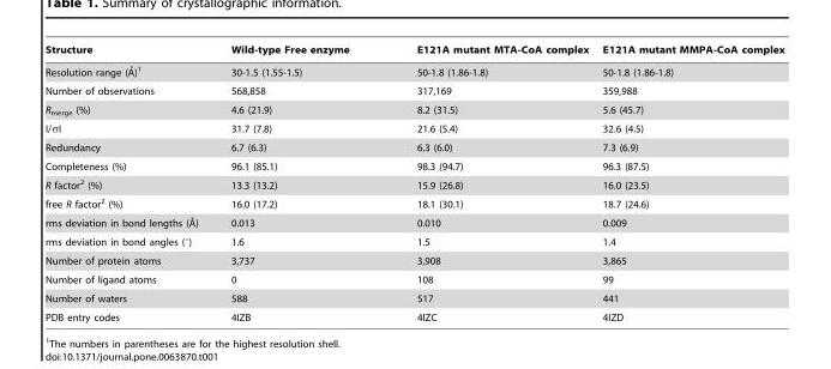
<table><thead><tr><td>Structure</td><td>Wild-type Free enzyme</td><td>E121A mutant MTA-CoA complex</td><td>E121A mutant MMPA-CoA complex</td></tr></thead><tbody><tr><td>Resolution range (A˚)1</td><td>30-1.5 (1.55-1.5)</td><td>50-1.8 (1.86-1.8)</td><td>50-1.8 (1.86-1.8)</td></tr><tr><td>Number of observations</td><td>568,858</td><td>317,169</td><td>359,988</td></tr><tr><td>R<sub>merge</sub> (%)</td><td>4.6 (21.9)</td><td>8.2 (31.5)</td><td>5.6 (45.7)</td></tr><tr><td>I/σI</td><td>31.7 (7.8)</td><td>21.6 (5.4)</td><td>32.6 (4.5)</td></tr><tr><td>Redundancy</td><td>6.7 (6.3)</td><td>6.3 (6.0)</td><td>7.3 (6.9)</td></tr><tr><td>Completeness (%)</td><td>96.1 (85.1)</td><td>98.3 (94.7)</td><td>96.3 (87.5)</td></tr><tr><td>R factor<sup>2</sup> (%)</td><td>13.3 (13.2)</td><td>15.9 (26.8)</td><td>16.0 (23.5)</td></tr><tr><td>free R factor<sup>2</sup> (%)</td><td>16.0 (17.2)</td><td>18.1 (30.1)</td><td>18.7 (24.6)</td></tr><tr><td>rms deviation in bond lengths (A˚)</td><td>0.013</td><td>0.010</td><td>0.009</td></tr><tr><td>rms deviation in bond angles (°)</td><td>1.6</td><td>1.5</td><td>1.4</td></tr><tr><td>Number of protein atoms</td><td>3,737</td><td>3,908</td><td>3,865</td></tr><tr><td>Number of ligand atoms</td><td>0</td><td>108</td><td>99</td></tr><tr><td>Number of waters</td><td>588</td><td>517</td><td>441</td></tr><tr><td>PDB entry codes</td><td>4IZB</td><td>4IZC</td><td>4IZD</td></tr></tbody></table>